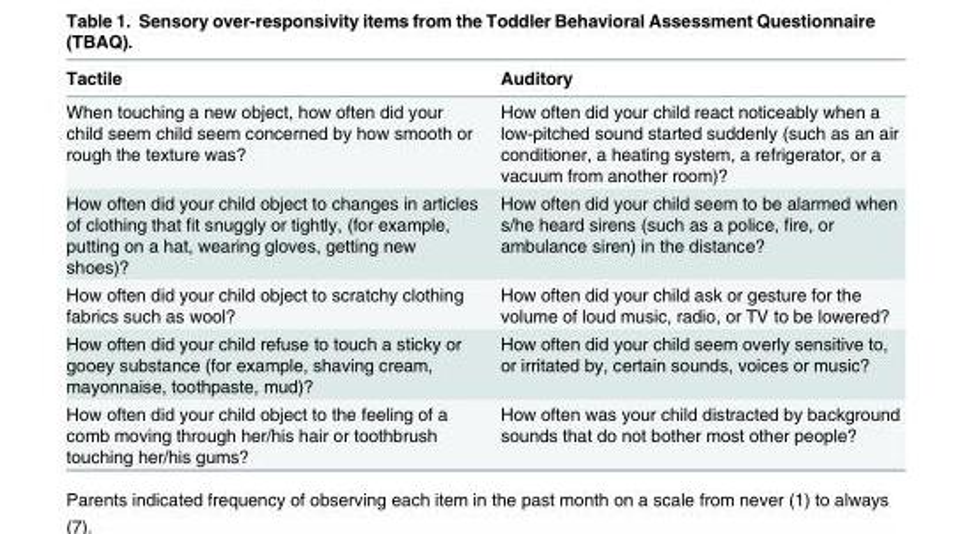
<table><thead><tr><td>Tactile</td><td>Auditory</td></tr></thead><tbody><tr><td>When touching a new object, how often did your child seem child seem concerned by how smooth or rough the texture was?</td><td>How often did your child react noticeably when a low-pitched sound started suddenly (such as an air conditioner, a heating system, a refrigerator, or a vacuum from another room)?</td></tr><tr><td>How often did your child object to changes in articles of clothing that fit snuggly or tightly, (for example, putting on a hat, wearing gloves, getting new shoes)?</td><td>How often did your child seem to be alarmed when s/he heard sirens (such as a police, fire, or ambulance siren) in the distance?</td></tr><tr><td>How often did your child object to scratchy clothing fabrics such as wool?</td><td>How often did your child ask or gesture for the volume of loud music, radio, or TV to be lowered?</td></tr><tr><td>How often did your child refuse to touch a sticky or gooey substance (for example, shaving cream, mayonnaise, toothpaste, mud)?</td><td>How often did your child seem overly sensitive to, or irritated by, certain sounds, voices or music?</td></tr><tr><td>How often did your child object to the feeling of a comb moving through her/his hair or toothbrush touching her/his gums?</td><td>How often was your child distracted by background sounds that do not bother most other people?</td></tr></tbody></table>